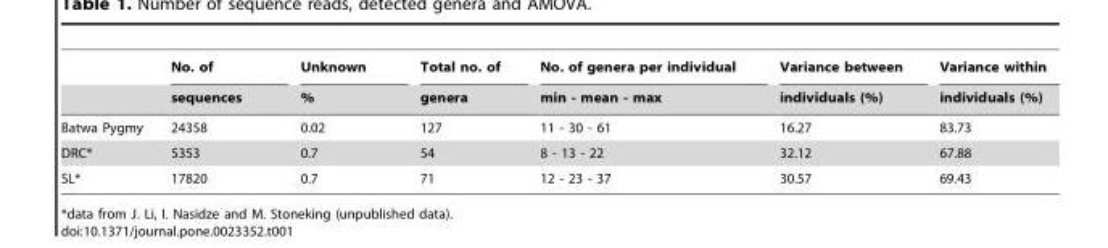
<table><thead><tr><td rowspan="2"></td><td rowspan="2">No. of sequences</td><td rowspan="2">Unknown %</td><td rowspan="2">Total no. of genera</td><td rowspan="2">No. of genera per individual min - mean - max</td><td rowspan="2">Variance between individuals (%)</td><td rowspan="2">Variance within individuals (%)</td></tr><tr></tr></thead><tbody><tr><td>Batwa Pygmy</td><td>24358</td><td>0.02</td><td>127</td><td>11 - 30 - 61</td><td>16.27</td><td>83.73</td></tr><tr><td>DRC*</td><td>5353</td><td>0.7</td><td>54</td><td>8 - 13 - 22</td><td>32.12</td><td>67.88</td></tr><tr><td>SL*</td><td>17820</td><td>0.7</td><td>71</td><td>12 - 23 - 37</td><td>30.57</td><td>69.43</td></tr></tbody></table>